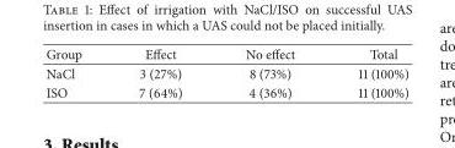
<table><thead><tr><td>Group</td><td>Effect</td><td>No effect</td><td>Total</td></tr></thead><tbody><tr><td>NaCl</td><td>3 (27%)</td><td>8 (73%)</td><td>11 (100%)</td></tr><tr><td>ISO</td><td>7 (64%)</td><td>4 (36%)</td><td>11 (100%)</td></tr></tbody></table>